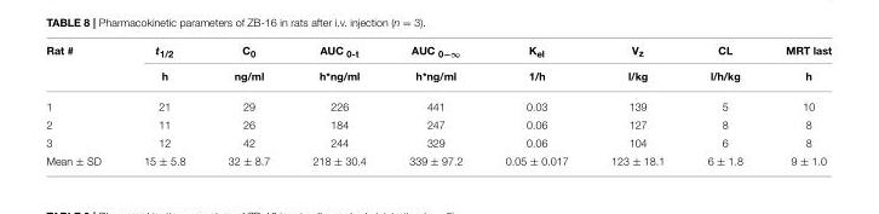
<table><thead><tr><td rowspan="2">Rat #</td><td rowspan="2">t<sub>1/2</sub> h</td><td rowspan="2">C<sub>0</sub> ng/ml</td><td rowspan="2">AUC <sub>0-t</sub> h*ng/ml</td><td rowspan="2">AUC <sub>0−∞</sub> h*ng/ml</td><td rowspan="2">K<sub>el</sub> 1/h</td><td rowspan="2">V<sub>z</sub> l/kg</td><td rowspan="2">CL l/h/kg</td><td rowspan="2">MRT last h</td></tr><tr></tr></thead><tbody><tr><td>1</td><td>21</td><td>29</td><td>226</td><td>441</td><td>0.03</td><td>139</td><td>5</td><td>10</td></tr><tr><td>2</td><td>11</td><td>26</td><td>184</td><td>247</td><td>0.06</td><td>127</td><td>8</td><td>8</td></tr><tr><td>3</td><td>12</td><td>42</td><td>244</td><td>329</td><td>0.06</td><td>104</td><td>6</td><td>8</td></tr><tr><td>Mean ± SD</td><td>15 ± 5.8</td><td>32 ± 8.7</td><td>218 ± 30.4</td><td>339 ± 97.2</td><td>0.05 ± 0.017</td><td>123 ± 18.1</td><td>6 ± 1.8</td><td>9 ± 1.0</td></tr></tbody></table>